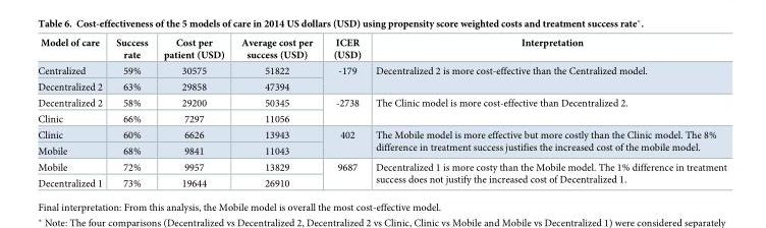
<table><thead><tr><td>Model of care</td><td>Success rate</td><td>Cost per patient (USD)</td><td>Average cost per success (USD)</td><td>ICER (USD)</td><td>Interpretation</td></tr></thead><tbody><tr><td>Centralized</td><td>59%</td><td>30575</td><td>51822</td><td rowspan="2">-179</td><td rowspan="2">Decentralized 2 is more cost-effective than the Centralized model.</td></tr><tr><td>Decentralized 2</td><td>63%</td><td>29858</td><td>47394</td></tr><tr><td>Decentralized 2</td><td>58%</td><td>29200</td><td>50345</td><td rowspan="2">-2738</td><td rowspan="2">The Clinic model is more cost-effective than Decentralized 2.</td></tr><tr><td>Clinic</td><td>66%</td><td>7297</td><td>11056</td></tr><tr><td>Clinic</td><td>60%</td><td>6626</td><td>13943</td><td rowspan="2">402</td><td rowspan="2">The Mobile model is more effective but more costly than the Clinic model. The 8% difference in treatment success justifies the increased cost of the mobile model.</td></tr><tr><td>Mobile</td><td>68%</td><td>9841</td><td>11043</td></tr><tr><td>Mobile</td><td>72%</td><td>9957</td><td>13829</td><td rowspan="2">9687</td><td rowspan="2">Decentralized 1 is more costy than the Mobile model. The 1% difference in treatment success does not justify the increased cost of Decentralized 1.</td></tr><tr><td>Decentralized 1</td><td>73%</td><td>19644</td><td>26910</td></tr></tbody></table>